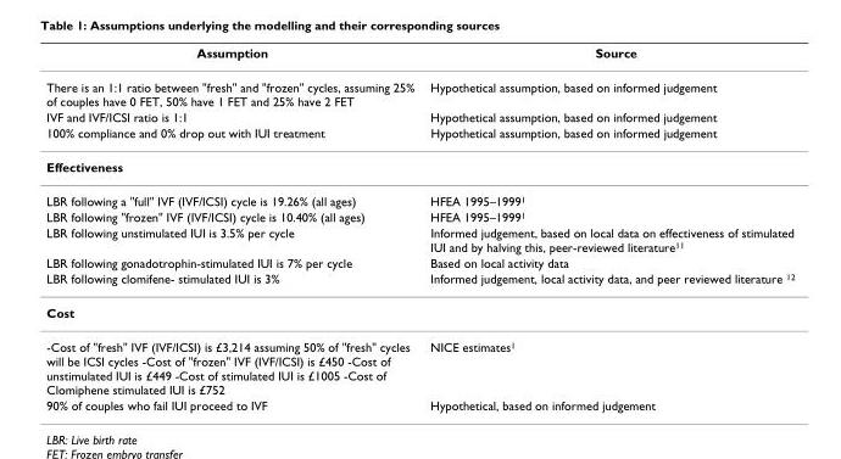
<table><thead><tr><td>Assumption</td><td>Source</td></tr></thead><tbody><tr><td>There is an 1:1 ratio between &quot;fresh&quot; and &quot;frozen&quot; cycles, assuming 25% of couples have 0 FET, 50% have 1 FET and 25% have 2 FET</td><td>Hypothetical assumption, based on informed judgement</td></tr><tr><td>IVF and IVF/ICSI ratio is 1:1</td><td>Hypothetical assumption, based on informed judgement</td></tr><tr><td>100% compliance and 0% drop out with IUI treatment</td><td>Hypothetical assumption, based on informed judgement</td></tr><tr><td colspan="2">Effectiveness</td></tr><tr><td>LBR following a &quot;full&quot; IVF (IVF/ICSI) cycle is 19.26% (all ages)</td><td>HFEA 1995–19991</td></tr><tr><td>LBR following &quot;frozen&quot; IVF (IVF/ICSI) cycle is 10.40% (all ages)</td><td>HFEA 1995–19991</td></tr><tr><td>LBR following unstimulated IUI is 3.5% per cycle</td><td>Informed judgement, based on local data on effectiveness of stimulated IUI and by halving this, peer-reviewed literature11</td></tr><tr><td>LBR following gonadotrophin-stimulated IUI is 7% per cycle</td><td>Based on local activity data</td></tr><tr><td>LBR following clomifene- stimulated IUI is 3%</td><td>Informed judgement, local activity data, and peer reviewed literature 12</td></tr><tr><td colspan="2">Cost</td></tr><tr><td>-Cost of &quot;fresh&quot; IVF (IVF/ICSI) is £3,214 assuming 50% of &quot;fresh&quot; cycles will be ICSI cycles -Cost of &quot;frozen&quot; IVF (IVF/ICSI) is £450 -Cost of unstimulated IUI is £449 -Cost of stimulated IUI is £1005 -Cost of Clomiphene stimulated IUI is £752</td><td>NICE estimates1</td></tr><tr><td>90% of couples who fail IUI proceed to IVF</td><td>Hypothetical, based on informed judgement</td></tr></tbody></table>